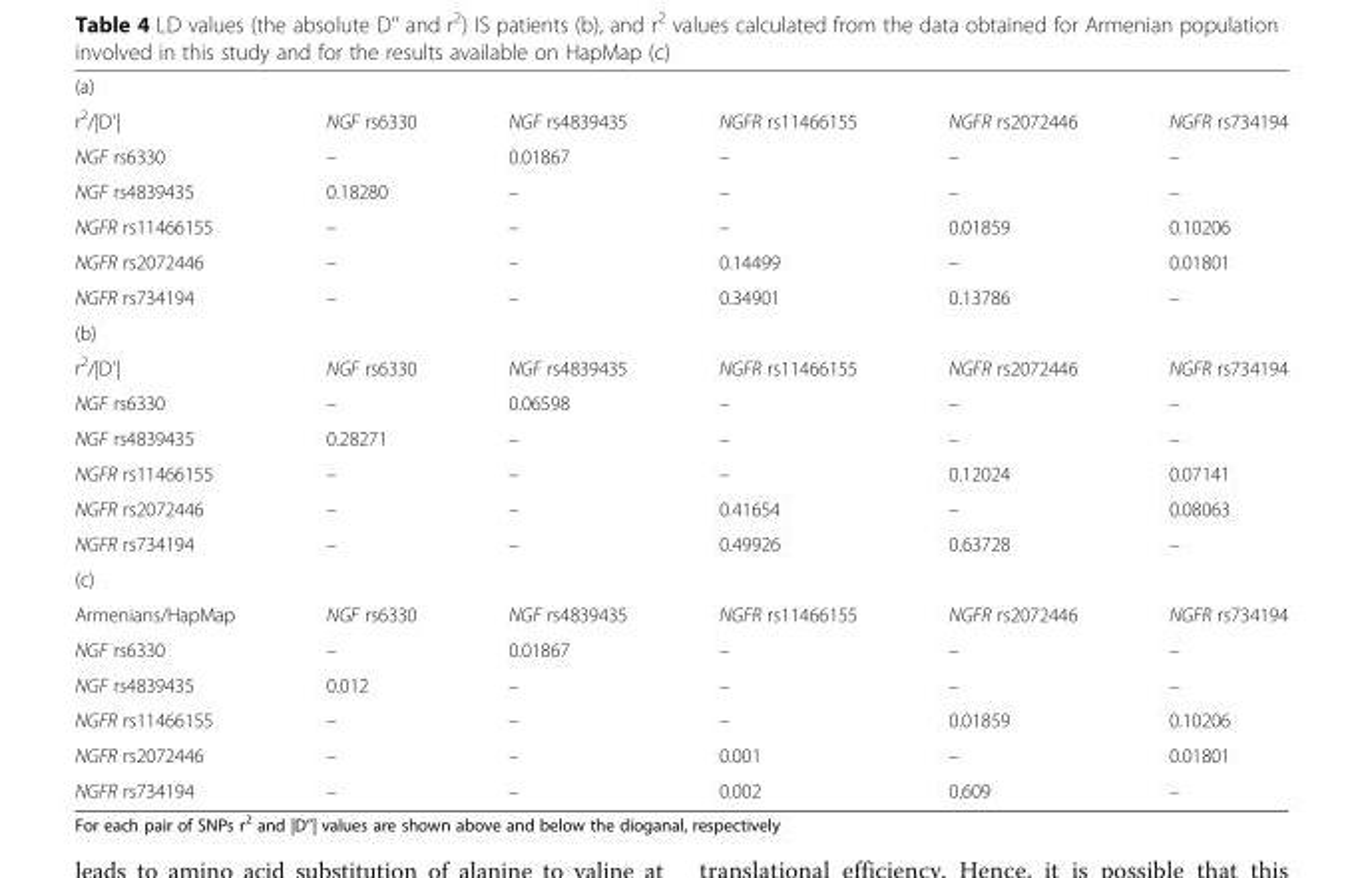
<table><tbody><tr><td colspan="6">(a)</td></tr><tr><td>r<sup>2</sup>/|D&#x27;|</td><td>NGF rs6330</td><td>NGF rs4839435</td><td>NGFR rs11466155</td><td>NGFR rs2072446</td><td>NGFR rs734194</td></tr><tr><td>NGF rs6330</td><td>–</td><td>0.01867</td><td>–</td><td>–</td><td>–</td></tr><tr><td>NGF rs4839435</td><td>0.18280</td><td>–</td><td>–</td><td>–</td><td>–</td></tr><tr><td>NGFR rs11466155</td><td>–</td><td>–</td><td>–</td><td>0.01859</td><td>0.10206</td></tr><tr><td>NGFR rs2072446</td><td>–</td><td>–</td><td>0.14499</td><td>–</td><td>0.01801</td></tr><tr><td>NGFR rs734194</td><td>–</td><td>–</td><td>0.34901</td><td>0.13786</td><td>–</td></tr><tr><td colspan="6">(b)</td></tr><tr><td>r<sup>2</sup>/|D&#x27;|</td><td>NGF rs6330</td><td>NGF rs4839435</td><td>NGFR rs11466155</td><td>NGFR rs2072446</td><td>NGFR rs734194</td></tr><tr><td>NGF rs6330</td><td>–</td><td>0.06598</td><td>–</td><td>–</td><td>–</td></tr><tr><td>NGF rs4839435</td><td>0.28271</td><td>–</td><td>–</td><td>–</td><td>–</td></tr><tr><td>NGFR rs11466155</td><td>–</td><td>–</td><td>–</td><td>0.12024</td><td>0.07141</td></tr><tr><td>NGFR rs2072446</td><td>–</td><td>–</td><td>0.41654</td><td>–</td><td>0.08063</td></tr><tr><td>NGFR rs734194</td><td>–</td><td>–</td><td>0.49926</td><td>0.63728</td><td>–</td></tr><tr><td colspan="6">(c)</td></tr><tr><td>Armenians/HapMap</td><td>NGF rs6330</td><td>NGF rs4839435</td><td>NGFR rs11466155</td><td>NGFR rs2072446</td><td>NGFR rs734194</td></tr><tr><td>NGF rs6330</td><td>–</td><td>0.01867</td><td>–</td><td>–</td><td>–</td></tr><tr><td>NGF rs4839435</td><td>0.012</td><td>–</td><td>–</td><td>–</td><td>–</td></tr><tr><td>NGFR rs11466155</td><td>–</td><td>–</td><td>–</td><td>0.01859</td><td>0.10206</td></tr><tr><td>NGFR rs2072446</td><td>–</td><td>–</td><td>0.001</td><td>–</td><td>0.01801</td></tr><tr><td>NGFR rs734194</td><td>–</td><td>–</td><td>0.002</td><td>0.609</td><td>–</td></tr></tbody></table>